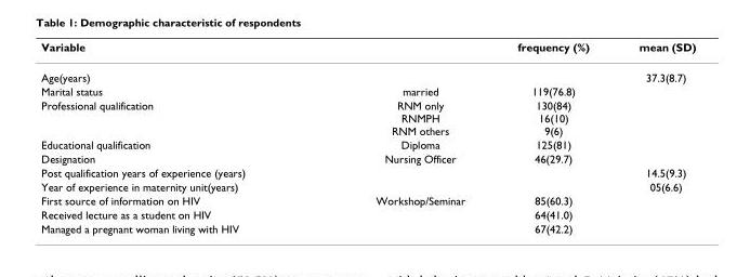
<table><thead><tr><td>Variable</td><td></td><td>frequency (%)</td><td>mean (SD)</td></tr></thead><tbody><tr><td>Age(years)</td><td></td><td></td><td>37.3(8.7)</td></tr><tr><td>Marital status</td><td>married</td><td>119(76.8)</td><td></td></tr><tr><td>Professional qualification</td><td>RNM only RNMPH RNM others</td><td>130(84) 16(10) 9(6)</td><td></td></tr><tr><td>Educational qualification</td><td>Diploma</td><td>125(81)</td><td></td></tr><tr><td>Designation</td><td>Nursing Officer</td><td>46(29.7)</td><td></td></tr><tr><td>Post qualification years of experience (years)</td><td></td><td></td><td>14.5(9.3)</td></tr><tr><td>Year of experience in maternity unit(years)</td><td></td><td></td><td>05(6.6)</td></tr><tr><td>First source of information on HIV</td><td>Workshop/Seminar</td><td>85(60.3)</td><td></td></tr><tr><td>Received lecture as a student on HIV</td><td></td><td>64(41.0)</td><td></td></tr><tr><td>Managed a pregnant woman living with HIV</td><td></td><td>67(42.2)</td><td></td></tr></tbody></table>